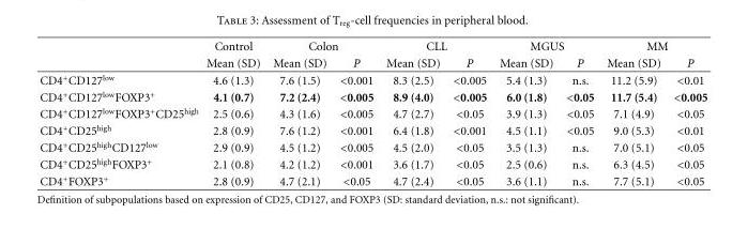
<table><thead><tr><td rowspan="2"></td><td rowspan="2">Control Mean (SD)</td><td colspan="2">Colon</td><td colspan="2">CLL</td><td colspan="2">MGUS</td><td colspan="2">MM</td></tr><tr><td>Mean (SD)</td><td>P</td><td>Mean (SD)</td><td>P</td><td>Mean (SD)</td><td>P</td><td>Mean (SD)</td><td>P</td></tr></thead><tbody><tr><td>CD4<sup>+</sup>CD127<sup>low</sup></td><td>4.6 (1.3)</td><td>7.6 (1.5)</td><td>&lt;0.001</td><td>8.3 (2.5)</td><td>&lt;0.005</td><td>5.4 (1.3)</td><td>n.s.</td><td>11.2 (5.9)</td><td>&lt;0.01</td></tr><tr><td>CD4<sup>+</sup>CD127<sup>low</sup>FOXP3<sup>+</sup></td><td>4.1 (0.7)</td><td>7.2 (2.4)</td><td>&lt;0.005</td><td>8.9 (4.0)</td><td>&lt;0.005</td><td>6.0 (1.8)</td><td>&lt;0.05</td><td>11.7 (5.4)</td><td>&lt;0.005</td></tr><tr><td>CD4<sup>+</sup>CD127<sup>low</sup>FOXP3<sup>+</sup>CD25<sup>high</sup></td><td>2.5 (0.6)</td><td>4.3 (1.6)</td><td>&lt;0.005</td><td>4.7 (2.7)</td><td>&lt;0.05</td><td>3.9 (1.3)</td><td>&lt;0.05</td><td>7.1 (4.9)</td><td>&lt;0.05</td></tr><tr><td>CD4<sup>+</sup>CD25<sup>high</sup></td><td>2.8 (0.9)</td><td>7.6 (1.2)</td><td>&lt;0.001</td><td>6.4 (1.8)</td><td>&lt;0.001</td><td>4.5 (1.1)</td><td>&lt;0.05</td><td>9.0 (5.3)</td><td>&lt;0.01</td></tr><tr><td>CD4<sup>+</sup>CD25<sup>high</sup>CD127<sup>low</sup></td><td>2.9 (0.9)</td><td>4.5 (1.2)</td><td>&lt;0.005</td><td>4.5 (2.0)</td><td>&lt;0.05</td><td>3.5 (1.3)</td><td>n.s.</td><td>7.0 (5.1)</td><td>&lt;0.05</td></tr><tr><td>CD4<sup>+</sup>CD25<sup>high</sup>FOXP3<sup>+</sup></td><td>2.1 (0.8)</td><td>4.2 (1.2)</td><td>&lt;0.001</td><td>3.6 (1.7)</td><td>&lt;0.05</td><td>2.5 (0.6)</td><td>n.s.</td><td>6.3 (4.5)</td><td>&lt;0.05</td></tr><tr><td>CD4<sup>+</sup>FOXP3<sup>+</sup></td><td>2.8 (0.9)</td><td>4.7 (2.1)</td><td>&lt;0.05</td><td>4.7 (2.4)</td><td>&lt;0.05</td><td>3.6 (1.1)</td><td>n.s.</td><td>7.7 (5.1)</td><td>&lt;0.05</td></tr></tbody></table>